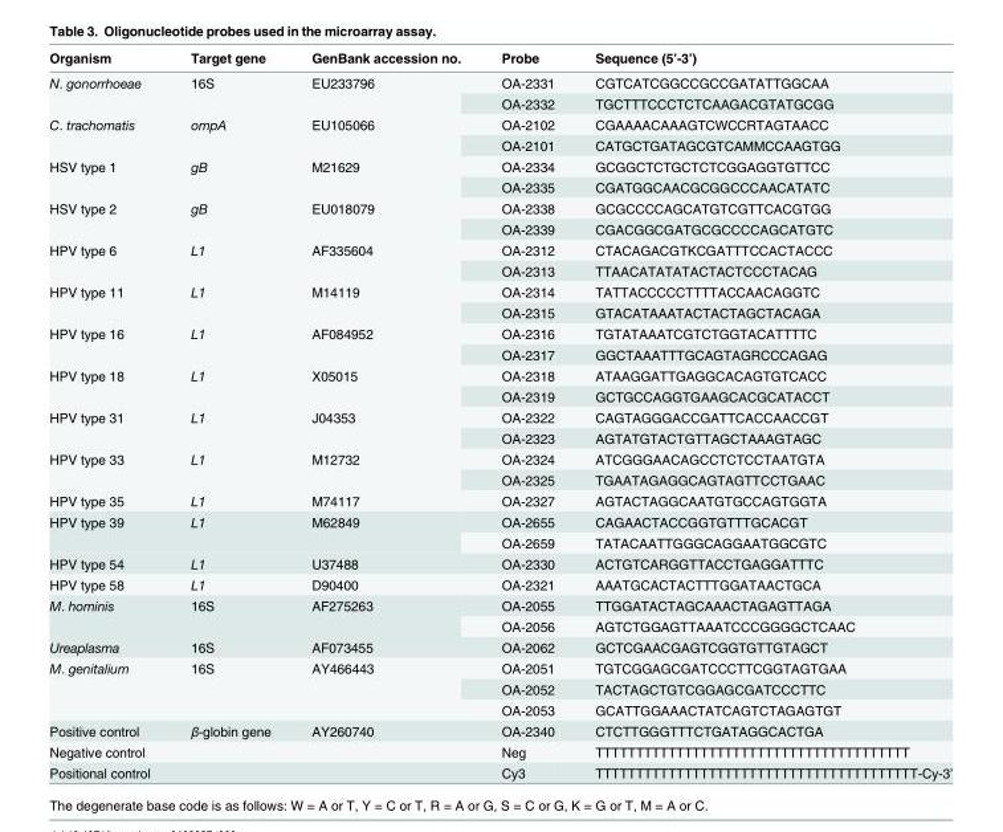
<table><thead><tr><td>Organism</td><td>Target gene</td><td>GenBank accession no.</td><td>Probe</td><td>Sequence (5’-3’)</td></tr></thead><tbody><tr><td rowspan="2">N. gonorrhoeae</td><td rowspan="2">16S</td><td rowspan="2">EU233796</td><td>OA-2331</td><td>CGTCATCGGCCGCCGATATTGGCAA</td></tr><tr><td>OA-2332</td><td>TGCTTTCCCTCTCAAGACGTATGCGG</td></tr><tr><td rowspan="2">C. trachomatis</td><td rowspan="2">ompA</td><td rowspan="2">EU105066</td><td>OA-2102</td><td>CGAAAACAAAGTCWCCRTAGTAACC</td></tr><tr><td>OA-2101</td><td>CATGCTGATAGCGTCAMMCCAAGTGG</td></tr><tr><td rowspan="2">HSV type 1</td><td rowspan="2">gB</td><td rowspan="2">M21629</td><td>OA-2334</td><td>GCGGCTCTGCTCTCGGAGGTGTTCC</td></tr><tr><td>OA-2335</td><td>CGATGGCAACGCGGCCCAACATATC</td></tr><tr><td rowspan="2">HSV type 2</td><td rowspan="2">gB</td><td rowspan="2">EU018079</td><td>OA-2338</td><td>GCGCCCCAGCATGTCGTTCACGTGG</td></tr><tr><td>OA-2339</td><td>CGACGGCGATGCGCCCCAGCATGTC</td></tr><tr><td rowspan="2">HPV type 6</td><td rowspan="2">L1</td><td rowspan="2">AF335604</td><td>OA-2312</td><td>CTACAGACGTKCGATTTCCACTACCC</td></tr><tr><td>OA-2313</td><td>TTAACATATATACTACTCCCTACAG</td></tr><tr><td rowspan="2">HPV type 11</td><td rowspan="2">L1</td><td rowspan="2">M14119</td><td>OA-2314</td><td>TATTACCCCCTTTTACCAACAGGTC</td></tr><tr><td>OA-2315</td><td>GTACATAAATACTACTAGCTACAGA</td></tr><tr><td rowspan="2">HPV type 16</td><td rowspan="2">L1</td><td rowspan="2">AF084952</td><td>OA-2316</td><td>TGTATAAATCGTCTGGTACATTTTC</td></tr><tr><td>OA-2317</td><td>GGCTAAATTTGCAGTAGRCCCAGAG</td></tr><tr><td rowspan="2">HPV type 18</td><td rowspan="2">L1</td><td rowspan="2">X05015</td><td>OA-2318</td><td>ATAAGGATTGAGGCACAGTGTCACC</td></tr><tr><td>OA-2319</td><td>GCTGCCAGGTGAAGCACGCATACCT</td></tr><tr><td rowspan="2">HPV type 31</td><td rowspan="2">L1</td><td rowspan="2">J04353</td><td>OA-2322</td><td>CAGTAGGGACCGATTCACCAACCGT</td></tr><tr><td>OA-2323</td><td>AGTATGTACTGTTAGCTAAAGTAGC</td></tr><tr><td rowspan="2">HPV type 33</td><td rowspan="2">L1</td><td rowspan="2">M12732</td><td>OA-2324</td><td>ATCGGGAACAGCCTCTCCTAATGTA</td></tr><tr><td>OA-2325</td><td>TGAATAGAGGCAGTAGTTCCTGAAC</td></tr><tr><td>HPV type 35</td><td>L1</td><td>M74117</td><td>OA-2327</td><td>AGTACTAGGCAATGTGCCAGTGGTA</td></tr><tr><td rowspan="2">HPV type 39</td><td rowspan="2">L1</td><td rowspan="2">M62849</td><td>OA-2655</td><td>CAGAACTACCGGTGTTTGCACGT</td></tr><tr><td>OA-2659</td><td>TATACAATTGGGCAGGAATGGCGTC</td></tr><tr><td>HPV type 54</td><td>L1</td><td>U37488</td><td>OA-2330</td><td>ACTGTCARGGTTACCTGAGGATTTC</td></tr><tr><td>HPV type 58</td><td>L1</td><td>D90400</td><td>OA-2321</td><td>AAATGCACTACTTTGGATAACTGCA</td></tr><tr><td rowspan="2">M. hominis</td><td rowspan="2">16S</td><td rowspan="2">AF275263</td><td>OA-2055</td><td>TTGGATACTAGCAAACTAGAGTTAGA</td></tr><tr><td>OA-2056</td><td>AGTCTGGAGTTAAATCCCGGGGCTCAAC</td></tr><tr><td>Ureaplasma</td><td>16S</td><td>AF073455</td><td>OA-2062</td><td>GCTCGAACGAGTCGGTGTTGTAGCT</td></tr><tr><td rowspan="3">M. genitalium</td><td rowspan="3">16S</td><td rowspan="3">AY466443</td><td>OA-2051</td><td>TGTCGGAGCGATCCCTTCGGTAGTGAA</td></tr><tr><td>OA-2052</td><td>TACTAGCTGTCGGAGCGATCCCTTC</td></tr><tr><td>OA-2053</td><td>GCATTGGAAACTATCAGTCTAGAGTGT</td></tr><tr><td>Positive control</td><td>β-globin gene</td><td>AY260740</td><td>OA-2340</td><td>CTCTTGGGTTTCTGATAGGCACTGA</td></tr><tr><td>Negative control</td><td></td><td></td><td>Neg</td><td>TTTTTTTTTTTTTTTTTTTTTTTTTTTTTTTTTTTTTTT</td></tr><tr><td>Positional control</td><td></td><td></td><td>Cy3</td><td>TTTTTTTTTTTTTTTTTTTTTTTTTTTTTTTTTTTTTTTT-Cy-3’</td></tr></tbody></table>